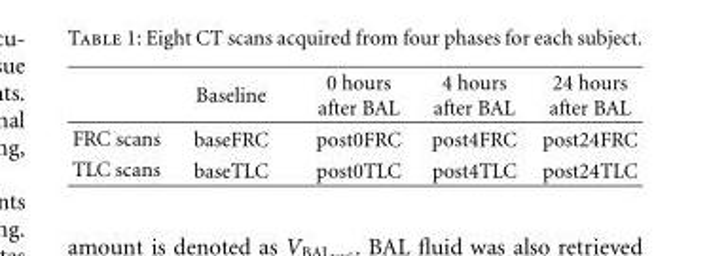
<table><thead><tr><td></td><td>Baseline</td><td>0 hours after BAL</td><td>4 hours after BAL</td><td>24 hours after BAL</td></tr></thead><tbody><tr><td>FRC scans</td><td>baseFRC</td><td>post0FRC</td><td>post4FRC</td><td>post24FRC</td></tr><tr><td>TLC scans</td><td>baseTLC</td><td>post0TLC</td><td>post4TLC</td><td>post24TLC</td></tr></tbody></table>